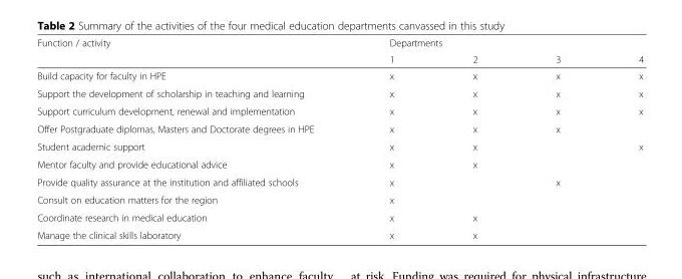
<table><thead><tr><td rowspan="2">Function / activity</td><td colspan="4">Departments</td></tr><tr><td>1</td><td>2</td><td>3</td><td>4</td></tr></thead><tbody><tr><td>Build capacity for faculty in HPE</td><td>x</td><td>x</td><td>x</td><td>x</td></tr><tr><td>Support the development of scholarship in teaching and learning</td><td>x</td><td>x</td><td>x</td><td>x</td></tr><tr><td>Support curriculum development, renewal and implementation</td><td>x</td><td>x</td><td>x</td><td>x</td></tr><tr><td>Offer Postgraduate diplomas, Masters and Doctorate degrees in HPE</td><td>x</td><td>x</td><td>x</td><td></td></tr><tr><td>Student academic support</td><td>x</td><td>x</td><td></td><td>x</td></tr><tr><td>Mentor faculty and provide educational advice</td><td>x</td><td>x</td><td></td><td></td></tr><tr><td>Provide quality assurance at the institution and affiliated schools</td><td>x</td><td></td><td>x</td><td></td></tr><tr><td>Consult on education matters for the region</td><td>x</td><td></td><td></td><td></td></tr><tr><td>Coordinate research in medical education</td><td>x</td><td>x</td><td></td><td></td></tr><tr><td>Manage the clinical skills laboratory</td><td>x</td><td>x</td><td></td><td></td></tr></tbody></table>